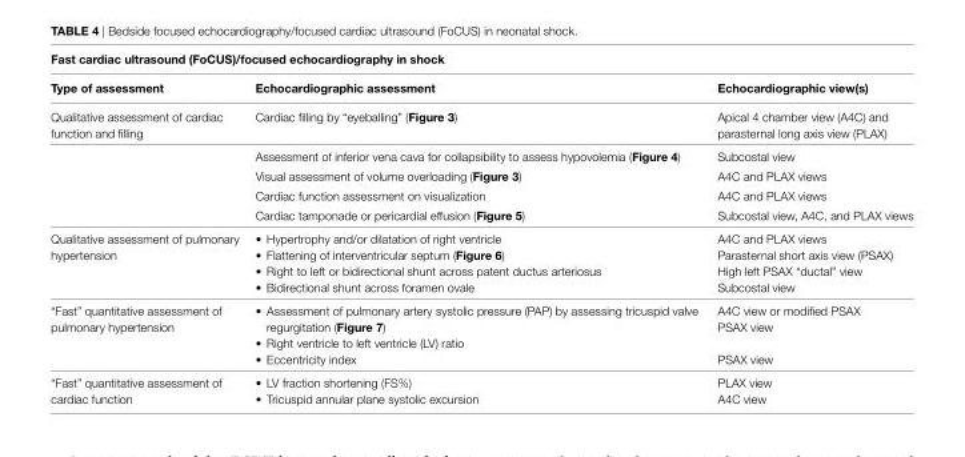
<table><thead><tr><td colspan="3">Fast cardiac ultrasound (FoCUS)/focused echocardiography in shock</td></tr><tr><td>Type of assessment</td><td>echocardiographic assessment</td><td>echocardiographic view(s)</td></tr></thead><tbody><tr><td rowspan="5">Qualitative assessment of cardiac function and filling</td><td>Cardiac filling by “eyeballing” (Figure 3)</td><td>Apical 4 chamber view (A4C) and parasternal long axis view (PLAX)</td></tr><tr><td>Assessment of inferior vena cava for collapsibility to assess hypovolemia (Figure 4)</td><td>Subcostal view</td></tr><tr><td>Visual assessment of volume overloading (Figure 3)</td><td>A4C and PLAX views</td></tr><tr><td>Cardiac function assessment on visualization</td><td>A4C and PLAX views</td></tr><tr><td>Cardiac tamponade or pericardial effusion (Figure 5)</td><td>Subcostal view, A4C, and PLAX views</td></tr><tr><td>Qualitative assessment of pulmonary hypertension</td><td>• Hypertrophy and/or dilatation of right ventricle • Flattening of interventricular septum (Figure 6) • Right to left or bidirectional shunt across patent ductus arteriosus • Bidirectional shunt across foramen ovale</td><td>A4C and PLAX views Parasternal short axis view (PSAX) High left PSAX “ductal” view Subcostal view</td></tr><tr><td>“Fast” quantitative assessment of pulmonary hypertension</td><td>• Assessment of pulmonary artery systolic pressure (PAP) by assessing tricuspid valve regurgitation (Figure 7) • Right ventricle to left ventricle (LV) ratio • Eccentricity index</td><td>A4C view or modified PSAX PSAX view PSAX view</td></tr><tr><td>“Fast” quantitative assessment of cardiac function</td><td>• LV fraction shortening (FS%) • Tricuspid annular plane systolic excursion</td><td>PLAX view A4C view</td></tr></tbody></table>